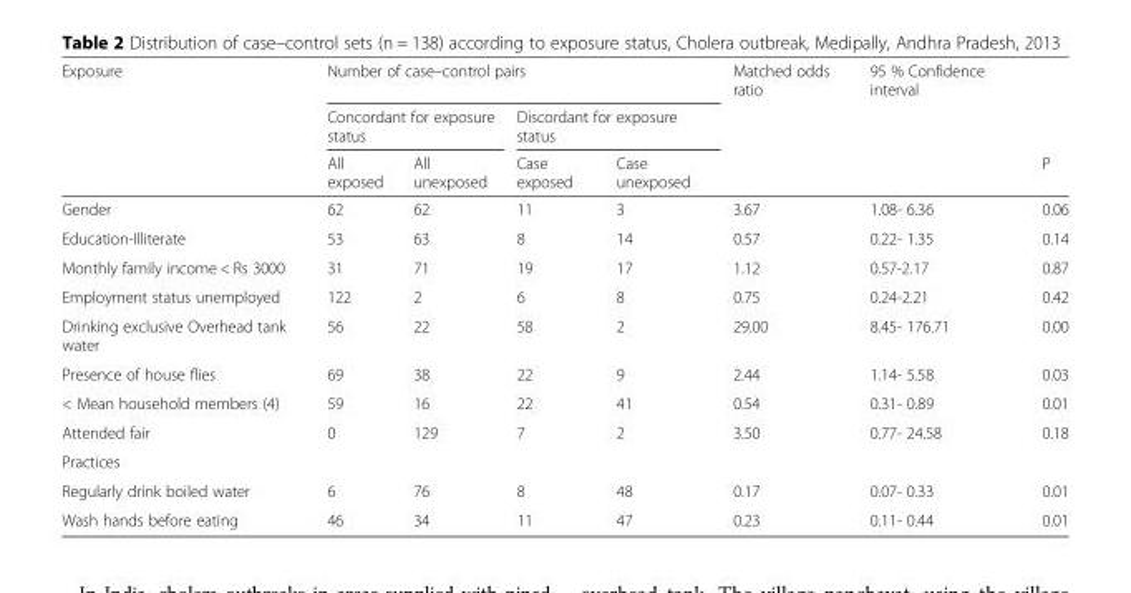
<table><thead><tr><td rowspan="3">Exposure</td><td colspan="4">Number of case–control pairs</td><td rowspan="3">Matched odds ratio</td><td rowspan="3">95 % Confidence interval</td><td rowspan="3">P</td></tr><tr><td colspan="2">Concordant for exposure status</td><td colspan="2">Discordant for exposure status</td></tr><tr><td>All exposed</td><td>All unexposed</td><td>Case exposed</td><td>Case unexposed</td></tr></thead><tbody><tr><td>Gender</td><td>62</td><td>62</td><td>11</td><td>3</td><td>3.67</td><td>1.08- 6.36</td><td>0.06</td></tr><tr><td>Education-Illiterate</td><td>53</td><td>63</td><td>8</td><td>14</td><td>0.57</td><td>0.22- 1.35</td><td>0.14</td></tr><tr><td>Monthly family income &lt; Rs 3000</td><td>31</td><td>71</td><td>19</td><td>17</td><td>1.12</td><td>0.57-2.17</td><td>0.87</td></tr><tr><td>Employment status unemployed</td><td>122</td><td>2</td><td>6</td><td>8</td><td>0.75</td><td>0.24-2.21</td><td>0.42</td></tr><tr><td>Drinking exclusive Overhead tank water</td><td>56</td><td>22</td><td>58</td><td>2</td><td>29.00</td><td>8.45- 176.71</td><td>0.00</td></tr><tr><td>Presence of house flies</td><td>69</td><td>38</td><td>22</td><td>9</td><td>2.44</td><td>1.14- 5.58</td><td>0.03</td></tr><tr><td>&lt; Mean household members (4)</td><td>59</td><td>16</td><td>22</td><td>41</td><td>0.54</td><td>0.31- 0.89</td><td>0.01</td></tr><tr><td>Attended fair</td><td>0</td><td>129</td><td>7</td><td>2</td><td>3.50</td><td>0.77- 24.58</td><td>0.18</td></tr><tr><td colspan="8">Practices</td></tr><tr><td>Regularly drink boiled water</td><td>6</td><td>76</td><td>8</td><td>48</td><td>0.17</td><td>0.07- 0.33</td><td>0.01</td></tr><tr><td>Wash hands before eating</td><td>46</td><td>34</td><td>11</td><td>47</td><td>0.23</td><td>0.11- 0.44</td><td>0.01</td></tr></tbody></table>